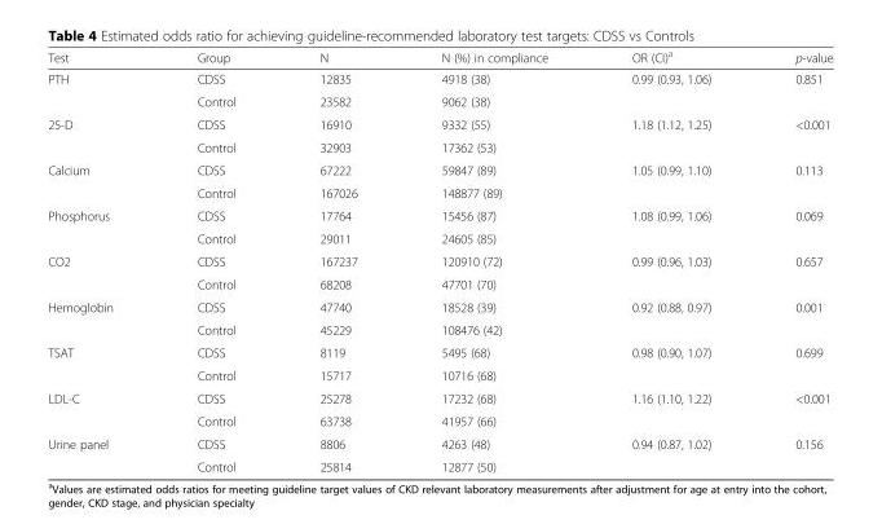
<table><thead><tr><td>Test</td><td>Group</td><td>N</td><td>N (%) in compliance</td><td>OR (CI)<sup>a</sup></td><td>p-value</td></tr></thead><tbody><tr><td rowspan="2">PTH</td><td>CDSS</td><td>12835</td><td>4918 (38)</td><td rowspan="2">0.99 (0.93, 1.06)</td><td rowspan="2">0.851</td></tr><tr><td>Control</td><td>23582</td><td>9062 (38)</td></tr><tr><td rowspan="2">25-D</td><td>CDSS</td><td>16910</td><td>9332 (55)</td><td rowspan="2">1.18 (1.12, 1.25)</td><td rowspan="2">&lt;0.001</td></tr><tr><td>Control</td><td>32903</td><td>17362 (53)</td></tr><tr><td rowspan="2">Calcium</td><td>CDSS</td><td>67222</td><td>59847 (89)</td><td rowspan="2">1.05 (0.99, 1.10)</td><td rowspan="2">0.113</td></tr><tr><td>Control</td><td>167026</td><td>148877 (89)</td></tr><tr><td rowspan="2">Phosphorus</td><td>CDSS</td><td>17764</td><td>15456 (87)</td><td rowspan="2">1.08 (0.99, 1.06)</td><td rowspan="2">0.069</td></tr><tr><td>Control</td><td>29011</td><td>24605 (85)</td></tr><tr><td rowspan="2">CO2</td><td>CDSS</td><td>167237</td><td>120910 (72)</td><td rowspan="2">0.99 (0.96, 1.03)</td><td rowspan="2">0.657</td></tr><tr><td>Control</td><td>68208</td><td>47701 (70)</td></tr><tr><td rowspan="2">Hemoglobin</td><td>CDSS</td><td>47740</td><td>18528 (39)</td><td rowspan="2">0.92 (0.88, 0.97)</td><td rowspan="2">0.001</td></tr><tr><td>Control</td><td>45229</td><td>108476 (42)</td></tr><tr><td rowspan="2">TSAT</td><td>CDSS</td><td>8119</td><td>5495 (68)</td><td rowspan="2">0.98 (0.90, 1.07)</td><td rowspan="2">0.699</td></tr><tr><td>Control</td><td>15717</td><td>10716 (68)</td></tr><tr><td rowspan="2">LDL-C</td><td>CDSS</td><td>25278</td><td>17232 (68)</td><td rowspan="2">1.16 (1.10, 1.22)</td><td rowspan="2">&lt;0.001</td></tr><tr><td>Control</td><td>63738</td><td>41957 (66)</td></tr><tr><td rowspan="2">Urine panel</td><td>CDSS</td><td>8806</td><td>4263 (48)</td><td rowspan="2">0.94 (0.87, 1.02)</td><td rowspan="2">0.156</td></tr><tr><td>Control</td><td>25814</td><td>12877 (50)</td></tr></tbody></table>